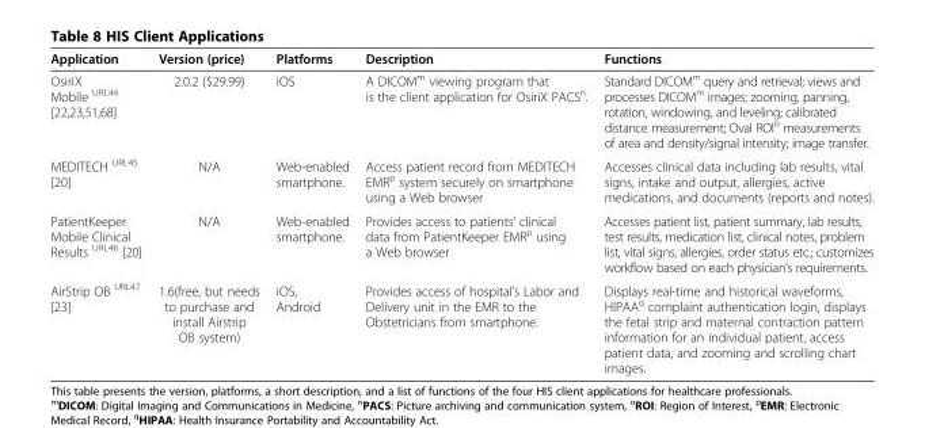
<table><thead><tr><td>Application</td><td>Version (price)</td><td>Platforms</td><td>Description</td><td>Functions</td></tr></thead><tbody><tr><td>OsiriX Mobile <sup>URL44</sup> [22,23,51,68]</td><td>2.0.2 ($29.99)</td><td>iOS</td><td>A DICOM<sup>m</sup> viewing program that is the client application for OsiriX PACS<sup>n</sup>.</td><td>Standard DICOM<sup>m</sup> query and retrieval; views and processes DICOM<sup>m</sup> images; zooming, panning, rotation, windowing, and leveling; calibrated distance measurement; Oval ROI<sup>o</sup> measurements of area and density/signal intensity; image transfer.</td></tr><tr><td>MEDITECH <sup>URL45</sup> [20]</td><td>N/A</td><td>Web-enabled smartphone.</td><td>Access patient record from MEDITECH EMR<sup>p</sup> system securely on smartphone using a Web browser</td><td>Accesses clinical data including lab results, vital signs, intake and output, allergies, active medications, and documents (reports and notes).</td></tr><tr><td>PatientKeeper Mobile Clinical Results <sup>URL46</sup> [20]</td><td>N/A</td><td>Web-enabled smartphone.</td><td>Provides access to patients’ clinical data from PatientKeeper EMR<sup>p</sup> using a Web browser</td><td>Accesses patient list, patient summary, lab results, test results, medication list, clinical notes, problem list, vital signs, allergies, order status etc.; customizes workflow based on each physician’s requirements.</td></tr><tr><td>AirStrip OB <sup>URL47</sup> [23]</td><td>1.6(free, but needs to purchase and install Airstrip OB system)</td><td>iOS, Android</td><td>Provides access of hospital’s Labor and Delivery unit in the EMR to the Obstetricians from smartphone.</td><td>Displays real-time and historical waveforms, HIPAA<sup>q</sup> complaint authentication login, displays the fetal strip and maternal contraction pattern information for an individual patient, access patient data, and zooming and scrolling chart images.</td></tr></tbody></table>